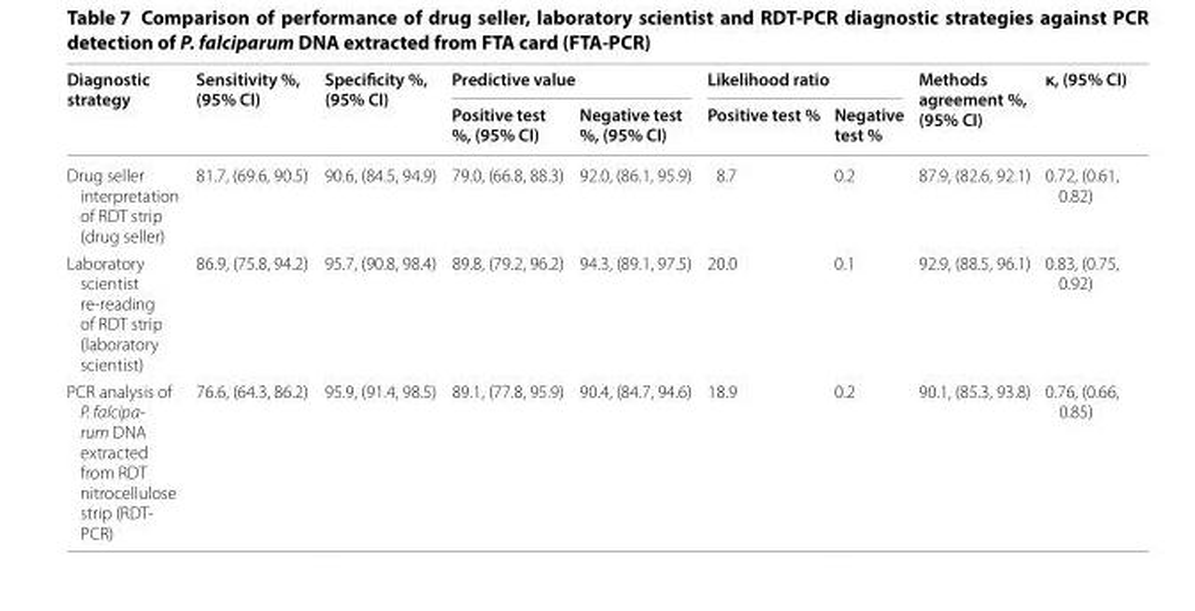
<table><thead><tr><td rowspan="2">Diagnostic strategy</td><td rowspan="2">Sensitivity %, (95% CI)</td><td rowspan="2">Specificity %, (95% CI)</td><td colspan="2">Predictive value</td><td colspan="2">Likelihood ratio</td><td rowspan="2">Methods agreement %, (95% CI)</td><td rowspan="2">κ, (95% CI)</td></tr><tr><td>Positive test %, (95% CI)</td><td>Negative test %, (95% CI)</td><td>Positive test %</td><td>Negative test %</td></tr></thead><tbody><tr><td>Drug seller interpretation of RDT strip (drug seller)</td><td>81.7, (69.6, 90.5)</td><td>90.6, (84.5, 94.9)</td><td>79.0, (66.8, 88.3)</td><td>92.0, (86.1, 95.9)</td><td>8.7</td><td>0.2</td><td>87.9, (82.6, 92.1)</td><td>0.72, (0.61, 0.82)</td></tr><tr><td>Laboratory scientist re-reading of RDT strip (laboratory scientist)</td><td>86.9, (75.8, 94.2)</td><td>95.7, (90.8, 98.4)</td><td>89.8, (79.2, 96.2)</td><td>94.3, (89.1, 97.5)</td><td>20.0</td><td>0.1</td><td>92.9, (88.5, 96.1)</td><td>0.83, (0.75, 0.92)</td></tr><tr><td>PCR analysis of P. falcipa- rum DNA extracted from RDT nitrocellulose strip (RDT- PCR)</td><td>76.6, (64.3, 86.2)</td><td>95.9, (91.4, 98.5)</td><td>89.1, (77.8, 95.9)</td><td>90.4, (84.7, 94.6)</td><td>18.9</td><td>0.2</td><td>90.1, (85.3, 93.8)</td><td>0.76, (0.66, 0.85)</td></tr></tbody></table>